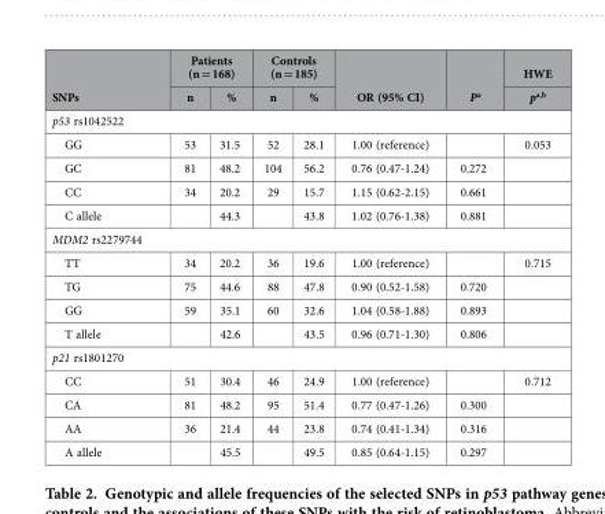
<table><thead><tr><td rowspan="2">SNPs</td><td colspan="2">Patients (n = 168)</td><td colspan="2">Controls (n = 185)</td><td rowspan="2">OR (95% CI)</td><td rowspan="2">P<sup>a</sup></td><td rowspan="2">HWE pa,<sup>b</sup></td></tr><tr><td>n</td><td>%</td><td>n</td><td>%</td></tr></thead><tbody><tr><td colspan="8">p53 rs1042522</td></tr><tr><td>GG</td><td>53</td><td>31.5</td><td>52</td><td>28.1</td><td>1.00 (reference)</td><td></td><td>0.053</td></tr><tr><td>GC</td><td>81</td><td>48.2</td><td>104</td><td>56.2</td><td>0.76 (0.47-1.24)</td><td>0.272</td><td></td></tr><tr><td>CC</td><td>34</td><td>20.2</td><td>29</td><td>15.7</td><td>1.15 (0.62-2.15)</td><td>0.661</td><td></td></tr><tr><td>C allele</td><td></td><td>44.3</td><td></td><td>43.8</td><td>1.02 (0.76-1.38)</td><td>0.881</td><td></td></tr><tr><td colspan="8">MDM2 rs2279744</td></tr><tr><td>TT</td><td>34</td><td>20.2</td><td>36</td><td>19.6</td><td>1.00 (reference)</td><td></td><td>0.715</td></tr><tr><td>TG</td><td>75</td><td>44.6</td><td>88</td><td>47.8</td><td>0.90 (0.52-1.58)</td><td>0.720</td><td></td></tr><tr><td>GG</td><td>59</td><td>35.1</td><td>60</td><td>32.6</td><td>1.04 (0.58-1.88)</td><td>0.893</td><td></td></tr><tr><td>T allele</td><td></td><td>42.6</td><td></td><td>43.5</td><td>0.96 (0.71-1.30)</td><td>0.806</td><td></td></tr><tr><td colspan="8">p21 rs1801270</td></tr><tr><td>CC</td><td>51</td><td>30.4</td><td>46</td><td>24.9</td><td>1.00 (reference)</td><td></td><td>0.712</td></tr><tr><td>CA</td><td>81</td><td>48.2</td><td>95</td><td>51.4</td><td>0.77 (0.47-1.26)</td><td>0.300</td><td></td></tr><tr><td>AA</td><td>36</td><td>21.4</td><td>44</td><td>23.8</td><td>0.74 (0.41-1.34)</td><td>0.316</td><td></td></tr><tr><td>A allele</td><td></td><td>45.5</td><td></td><td>49.5</td><td>0.85 (0.64-1.15)</td><td>0.297</td><td></td></tr></tbody></table>